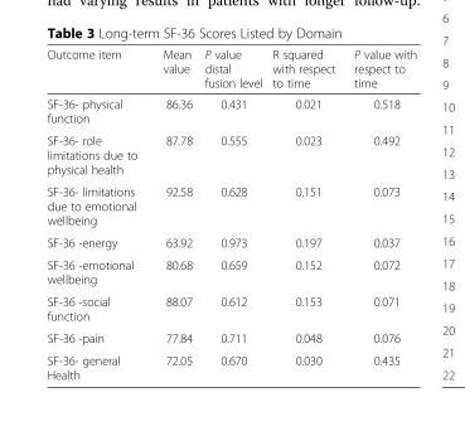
<table><thead><tr><td>Outcome item</td><td>Mean value</td><td>P value distal fusion level</td><td>R squared with respect to time</td><td>P value with respect to time</td></tr></thead><tbody><tr><td>SF-36- physical function</td><td>86.36</td><td>0.431</td><td>0.021</td><td>0.518</td></tr><tr><td>SF-36- role limitations due to physical health</td><td>87.78</td><td>0.555</td><td>0.023</td><td>0.492</td></tr><tr><td>SF-36- limitations due to emotional wellbeing</td><td>92.58</td><td>0.628</td><td>0.151</td><td>0.073</td></tr><tr><td>SF-36 -energy</td><td>63.92</td><td>0.973</td><td>0.197</td><td>0.037</td></tr><tr><td>SF-36 -emotional wellbeing</td><td>80.68</td><td>0.659</td><td>0.152</td><td>0.072</td></tr><tr><td>SF-36 -social function</td><td>88.07</td><td>0.612</td><td>0.153</td><td>0.071</td></tr><tr><td>SF-36 -pain</td><td>77.84</td><td>0.711</td><td>0.048</td><td>0.076</td></tr><tr><td>SF-36- general Health</td><td>72.05</td><td>0.670</td><td>0.030</td><td>0.435</td></tr></tbody></table>